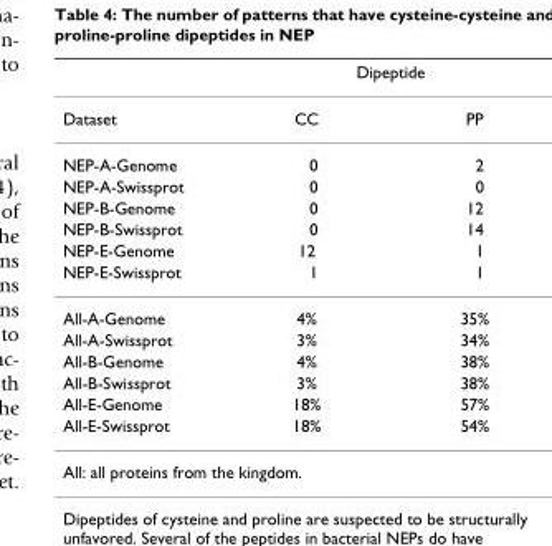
<table><thead><tr><td rowspan="2">Dataset</td><td colspan="2">Dipeptide</td></tr><tr><td>CC</td><td>PP</td></tr></thead><tbody><tr><td>NEP-A-Genome</td><td>0</td><td>2</td></tr><tr><td>NEP-A-Swissprot</td><td>0</td><td>0</td></tr><tr><td>NEP-B-Genome</td><td>0</td><td>12</td></tr><tr><td>NEP-B-Swissprot</td><td>0</td><td>14</td></tr><tr><td>NEP-E-Genome</td><td>12</td><td>1</td></tr><tr><td>NEP-E-Swissprot</td><td>1</td><td>1</td></tr><tr><td>All-A-Genome</td><td>4%</td><td>35%</td></tr><tr><td>All-A-Swissprot</td><td>3%</td><td>34%</td></tr><tr><td>All-B-Genome</td><td>4%</td><td>38%</td></tr><tr><td>All-B-Swissprot</td><td>3%</td><td>38%</td></tr><tr><td>All-E-Genome</td><td>18%</td><td>57%</td></tr><tr><td>All-E-Swissprot</td><td>18%</td><td>54%</td></tr><tr><td colspan="3">All: all proteins from the kingdom.</td></tr></tbody></table>